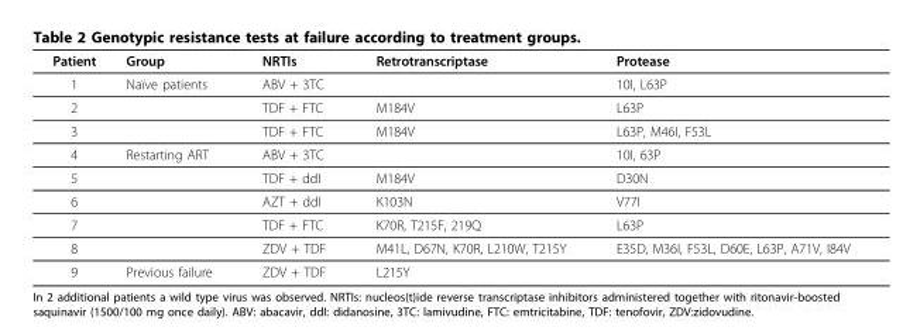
<table><thead><tr><td>Patient</td><td>Group</td><td>NRTIs</td><td>Retrotranscriptase</td><td>Protease</td></tr></thead><tbody><tr><td>1</td><td>Naïve patients</td><td>ABV + 3TC</td><td></td><td>10I, L63P</td></tr><tr><td>2</td><td></td><td>TDF + FTC</td><td>M184V</td><td>L63P</td></tr><tr><td>3</td><td></td><td>TDF + FTC</td><td>M184V</td><td>L63P, M46I, F53L</td></tr><tr><td>4</td><td>Restarting ART</td><td>ABV + 3TC</td><td></td><td>10I, 63P</td></tr><tr><td>5</td><td></td><td>TDF + ddI</td><td>M184V</td><td>D30N</td></tr><tr><td>6</td><td></td><td>AZT + ddI</td><td>K103N</td><td>V77I</td></tr><tr><td>7</td><td></td><td>TDF + FTC</td><td>K70R, T215F, 219Q</td><td>L63P</td></tr><tr><td>8</td><td></td><td>ZDV + TDF</td><td>M41L, D67N, K70R, L210W, T215Y</td><td>E35D, M36I, F53L, D60E, L63P, A71V, I84V</td></tr><tr><td>9</td><td>Previous failure</td><td>ZDV + TDF</td><td>L215Y</td><td></td></tr></tbody></table>